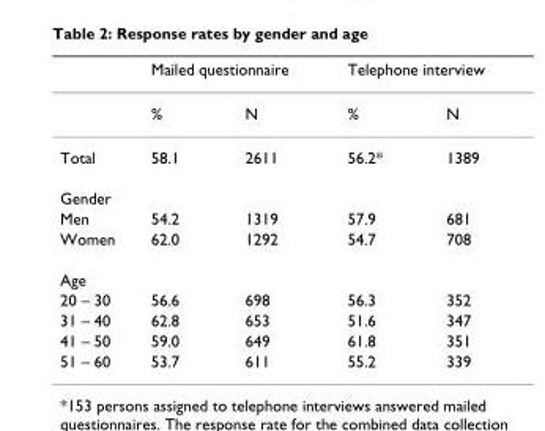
<table><thead><tr><td rowspan="2"></td><td colspan="2">Mailed questionnaire</td><td colspan="2">Telephone interview</td></tr><tr><td>%</td><td>N</td><td>%</td><td>N</td></tr></thead><tbody><tr><td>Total</td><td>58.1</td><td>2611</td><td>56.2*</td><td>1389</td></tr><tr><td colspan="5">Gender</td></tr><tr><td>Men</td><td>54.2</td><td>1319</td><td>57.9</td><td>681</td></tr><tr><td>Women</td><td>62.0</td><td>1292</td><td>54.7</td><td>708</td></tr><tr><td colspan="5">Age</td></tr><tr><td>20 – 30</td><td>56.6</td><td>698</td><td>56.3</td><td>352</td></tr><tr><td>31 – 40</td><td>62.8</td><td>653</td><td>51.6</td><td>347</td></tr><tr><td>41 – 50</td><td>59.0</td><td>649</td><td>61.8</td><td>351</td></tr><tr><td>51 – 60</td><td>53.7</td><td>611</td><td>55.2</td><td>339</td></tr></tbody></table>